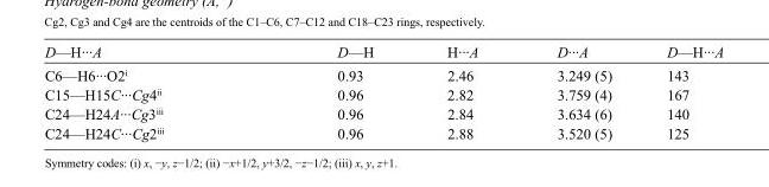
<table><tbody><tr><td>D—H···A</td><td>D—H</td><td>H···A</td><td>D···A</td><td>D—H···A</td></tr><tr><td>C6—H6···O2<sup>i</sup></td><td>0.93</td><td>2.46</td><td>3.249 (5)</td><td>143</td></tr><tr><td>C15—H15C···Cg4<sup>ii</sup></td><td>0.96</td><td>2.82</td><td>3.759 (4)</td><td>167</td></tr><tr><td>C24—H24A···Cg3<sup>iii</sup></td><td>0.96</td><td>2.84</td><td>3.634 (6)</td><td>140</td></tr><tr><td>C24—H24C···Cg2<sup>iii</sup></td><td>0.96</td><td>2.88</td><td>3.520 (5)</td><td>125</td></tr></tbody></table>